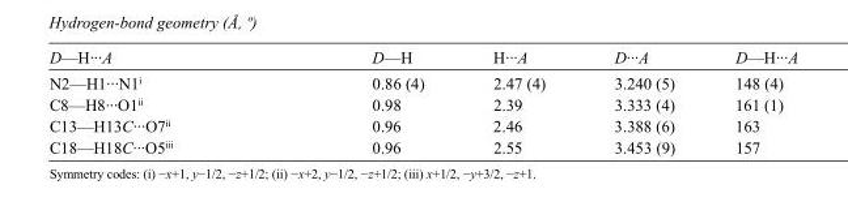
<table><tbody><tr><td>D—H···A</td><td>D—H</td><td>H···A</td><td>D···A</td><td>D—H···A</td></tr><tr><td>N2—H1···N1<sup>i</sup></td><td>0.86 (4)</td><td>2.47 (4)</td><td>3.240 (5)</td><td>148 (4)</td></tr><tr><td>C8—H8···O1<sup>ii</sup></td><td>0.98</td><td>2.39</td><td>3.333 (4)</td><td>161 (1)</td></tr><tr><td>C13—H13C···O7<sup>ii</sup></td><td>0.96</td><td>2.46</td><td>3.388 (6)</td><td>163</td></tr><tr><td>C18—H18C···O5<sup>iii</sup></td><td>0.96</td><td>2.55</td><td>3.453 (9)</td><td>157</td></tr></tbody></table>